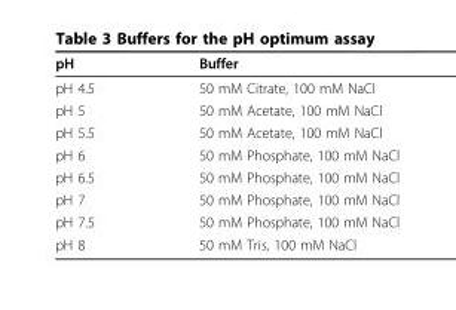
<table><thead><tr><td>pH</td><td>Buffer</td></tr></thead><tbody><tr><td>pH 4.5</td><td>50 mM Citrate, 100 mM NaCl</td></tr><tr><td>pH 5</td><td>50 mM Acetate, 100 mM NaCl</td></tr><tr><td>pH 5.5</td><td>50 mM Acetate, 100 mM NaCl</td></tr><tr><td>pH 6</td><td>50 mM Phosphate, 100 mM NaCl</td></tr><tr><td>pH 6.5</td><td>50 mM Phosphate, 100 mM NaCl</td></tr><tr><td>pH 7</td><td>50 mM Phosphate, 100 mM NaCl</td></tr><tr><td>pH 7.5</td><td>50 mM Phosphate, 100 mM NaCl</td></tr><tr><td>pH 8</td><td>50 mM Tris, 100 mM NaCl</td></tr></tbody></table>